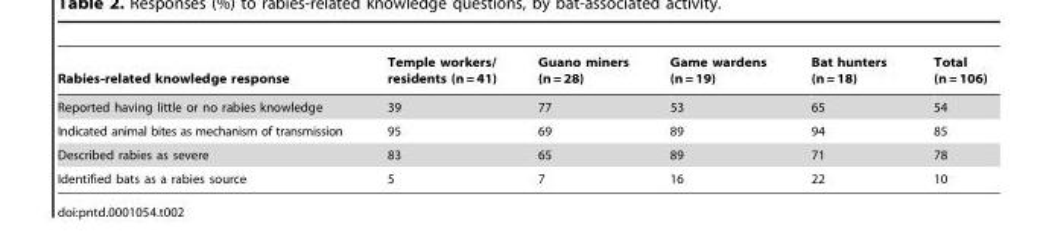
<table><thead><tr><td>Rabies-related knowledge response</td><td>Temple workers/ residents (n = 41)</td><td>Guano miners (n = 28)</td><td>Game wardens (n = 19)</td><td>Bat hunters (n = 18)</td><td>Total (n = 106)</td></tr></thead><tbody><tr><td>Reported having little or no rabies knowledge</td><td>39</td><td>77</td><td>53</td><td>65</td><td>54</td></tr><tr><td>Indicated animal bites as mechanism of transmission</td><td>95</td><td>69</td><td>89</td><td>94</td><td>85</td></tr><tr><td>Described rabies as severe</td><td>83</td><td>65</td><td>89</td><td>71</td><td>78</td></tr><tr><td>Identified bats as a rabies source</td><td>5</td><td>7</td><td>16</td><td>22</td><td>10</td></tr></tbody></table>